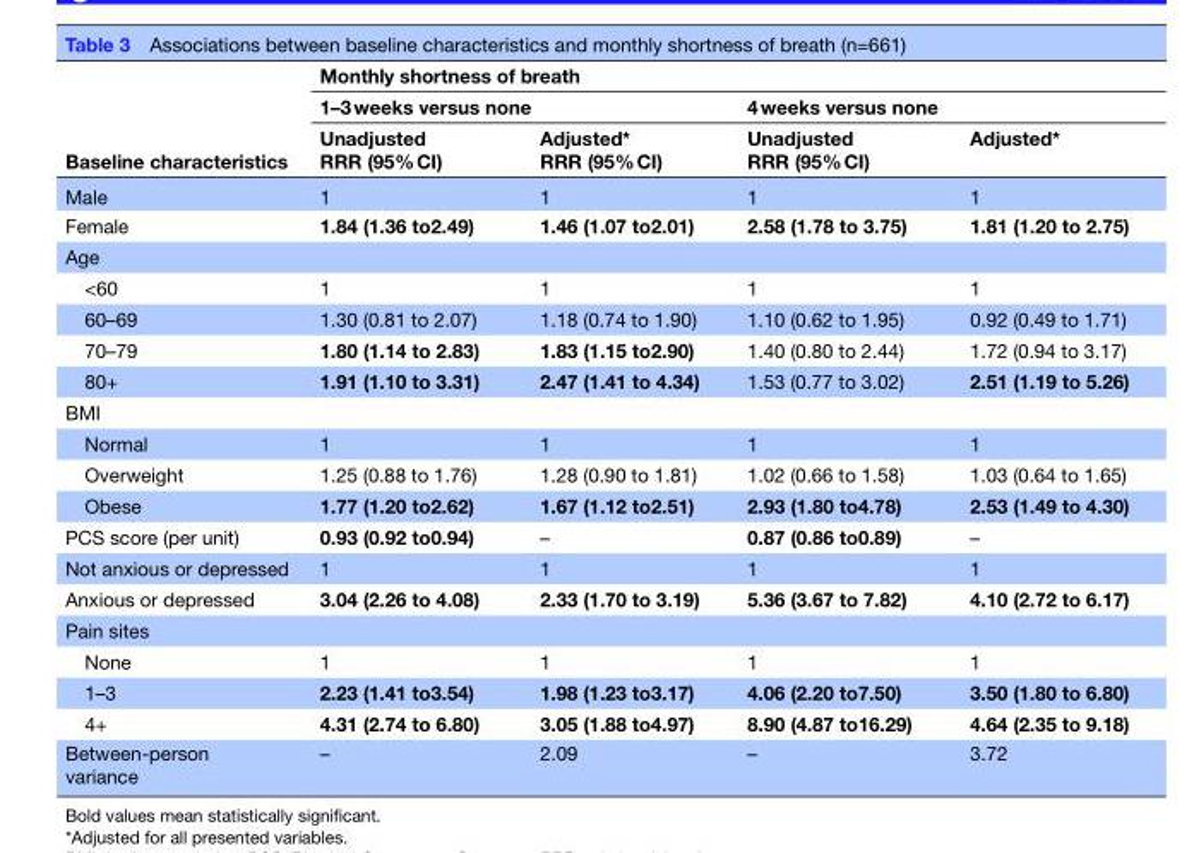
<table><thead><tr><td rowspan="3">Baseline characteristics</td><td colspan="4">Monthly shortness of breath</td></tr><tr><td colspan="2">1–3 weeks versus none</td><td colspan="2">4 weeks versus none</td></tr><tr><td>Unadjusted RRR (95% CI)</td><td>Adjusted* RRR (95% CI)</td><td>Unadjusted RRR (95% CI)</td><td>Adjusted*</td></tr></thead><tbody><tr><td>Male</td><td>1</td><td>1</td><td>1</td><td>1</td></tr><tr><td>Female</td><td>1.84 (1.36 to2.49)</td><td>1.46 (1.07 to2.01)</td><td>2.58 (1.78 to 3.75)</td><td>1.81 (1.20 to 2.75)</td></tr><tr><td colspan="5">Age</td></tr><tr><td>&lt;60</td><td>1</td><td>1</td><td>1</td><td>1</td></tr><tr><td>60–69</td><td>1.30 (0.81 to 2.07)</td><td>1.18 (0.74 to 1.90)</td><td>1.10 (0.62 to 1.95)</td><td>0.92 (0.49 to 1.71)</td></tr><tr><td>70–79</td><td>1.80 (1.14 to 2.83)</td><td>1.83 (1.15 to2.90)</td><td>1.40 (0.80 to 2.44)</td><td>1.72 (0.94 to 3.17)</td></tr><tr><td>80+</td><td>1.91 (1.10 to 3.31)</td><td>2.47 (1.41 to 4.34)</td><td>1.53 (0.77 to 3.02)</td><td>2.51 (1.19 to 5.26)</td></tr><tr><td colspan="5">BMI</td></tr><tr><td>Normal</td><td>1</td><td>1</td><td>1</td><td>1</td></tr><tr><td>Overweight</td><td>1.25 (0.88 to 1.76)</td><td>1.28 (0.90 to 1.81)</td><td>1.02 (0.66 to 1.58)</td><td>1.03 (0.64 to 1.65)</td></tr><tr><td>Obese</td><td>1.77 (1.20 to2.62)</td><td>1.67 (1.12 to2.51)</td><td>2.93 (1.80 to4.78)</td><td>2.53 (1.49 to 4.30)</td></tr><tr><td>PCS score (per unit)</td><td>0.93 (0.92 to0.94)</td><td>–</td><td>0.87 (0.86 to0.89)</td><td>–</td></tr><tr><td>Not anxious or depressed</td><td>1</td><td>1</td><td>1</td><td>1</td></tr><tr><td>Anxious or depressed</td><td>3.04 (2.26 to 4.08)</td><td>2.33 (1.70 to 3.19)</td><td>5.36 (3.67 to 7.82)</td><td>4.10 (2.72 to 6.17)</td></tr><tr><td colspan="5">Pain sites</td></tr><tr><td>None</td><td>1</td><td>1</td><td>1</td><td>1</td></tr><tr><td>1–3</td><td>2.23 (1.41 to3.54)</td><td>1.98 (1.23 to3.17)</td><td>4.06 (2.20 to7.50)</td><td>3.50 (1.80 to 6.80)</td></tr><tr><td>4+</td><td>4.31 (2.74 to 6.80)</td><td>3.05 (1.88 to4.97)</td><td>8.90 (4.87 to16.29)</td><td>4.64 (2.35 to 9.18)</td></tr><tr><td>Between-person variance</td><td>–</td><td>2.09</td><td>–</td><td>3.72</td></tr></tbody></table>